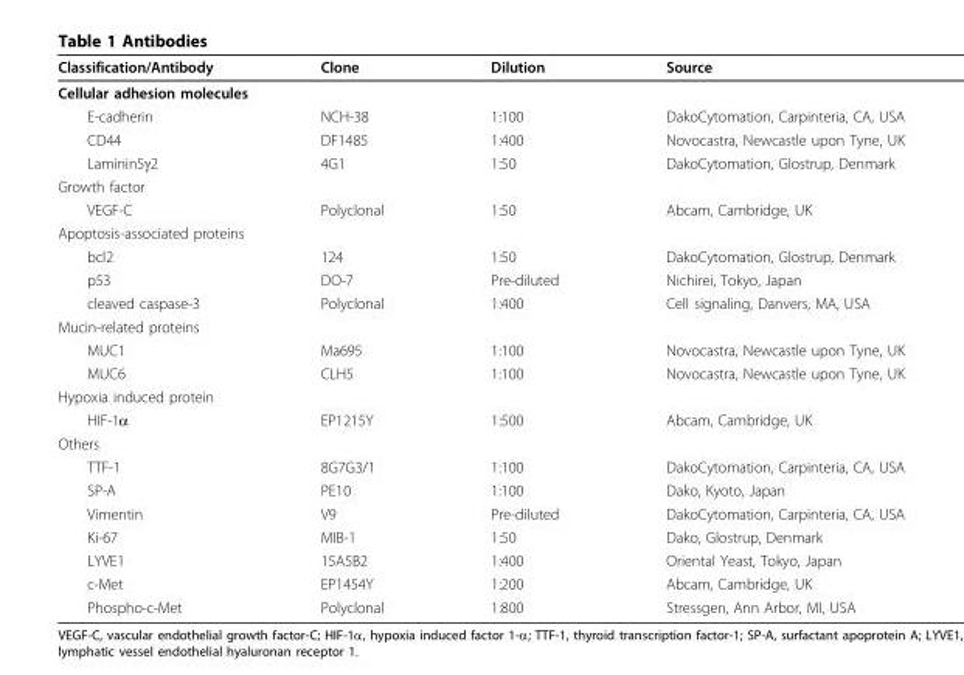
<table><thead><tr><td>Classification/Antibody</td><td>Clone</td><td>Dilution</td><td>Source</td></tr></thead><tbody><tr><td colspan="4">Cellular adhesion molecules</td></tr><tr><td>E-cadherin</td><td>NCH-38</td><td>1:100</td><td>DakoCytomation, Carpinteria, CA, USA</td></tr><tr><td>CD44</td><td>DF1485</td><td>1:400</td><td>Novocastra, Newcastle upon Tyne, UK</td></tr><tr><td>Laminin5γ2</td><td>4G1</td><td>1:50</td><td>DakoCytomation, Glostrup, Denmark</td></tr><tr><td colspan="4">Growth factor</td></tr><tr><td>VEGF-C</td><td>Polyclonal</td><td>1:50</td><td>Abcam, Cambridge, UK</td></tr><tr><td colspan="4">Apoptosis-associated proteins</td></tr><tr><td>bcl2</td><td>124</td><td>1:50</td><td>DakoCytomation, Glostrup, Denmark</td></tr><tr><td>p53</td><td>DO-7</td><td>Pre-diluted</td><td>Nichirei, Tokyo, Japan</td></tr><tr><td>cleaved caspase-3</td><td>Polyclonal</td><td>1:400</td><td>Cell signaling, Danvers, MA, USA</td></tr><tr><td colspan="4">Mucin-related proteins</td></tr><tr><td>MUC1</td><td>Ma695</td><td>1:100</td><td>Novocastra, Newcastle upon Tyne, UK</td></tr><tr><td>MUC6</td><td>CLH5</td><td>1:100</td><td>Novocastra, Newcastle upon Tyne, UK</td></tr><tr><td colspan="4">Hypoxia induced protein</td></tr><tr><td>HIF-1α</td><td>EP1215Y</td><td>1:500</td><td>Abcam, Cambridge, UK</td></tr><tr><td colspan="4">Others</td></tr><tr><td>TTF-1</td><td>8G7G3/1</td><td>1:100</td><td>DakoCytomation, Carpinteria, CA, USA</td></tr><tr><td>SP-A</td><td>PE10</td><td>1:100</td><td>Dako, Kyoto, Japan</td></tr><tr><td>Vimentin</td><td>V9</td><td>Pre-diluted</td><td>DakoCytomation, Carpinteria, CA, USA</td></tr><tr><td>Ki-67</td><td>MIB-1</td><td>1:50</td><td>Dako, Glostrup, Denmark</td></tr><tr><td>LYVE1</td><td>15A5B2</td><td>1:400</td><td>Oriental Yeast, Tokyo, Japan</td></tr><tr><td>c-Met</td><td>EP1454Y</td><td>1:200</td><td>Abcam, Cambridge, UK</td></tr><tr><td>Phospho-c-Met</td><td>Polyclonal</td><td>1:800</td><td>Stressgen, Ann Arbor, MI, USA</td></tr></tbody></table>